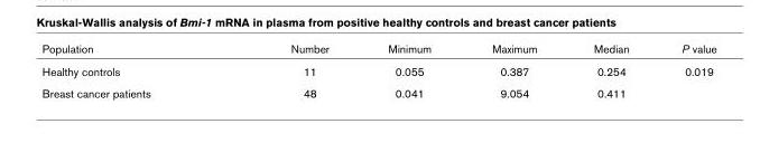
<table><thead><tr><td>Population</td><td>Number</td><td>Minimum</td><td>Maximum</td><td>Median</td><td>P value</td></tr></thead><tbody><tr><td>Healthy controls</td><td>11</td><td>0.055</td><td>0.387</td><td>0.254</td><td>0.019</td></tr><tr><td>Breast cancer patients</td><td>48</td><td>0.041</td><td>9.054</td><td>0.411</td><td></td></tr></tbody></table>